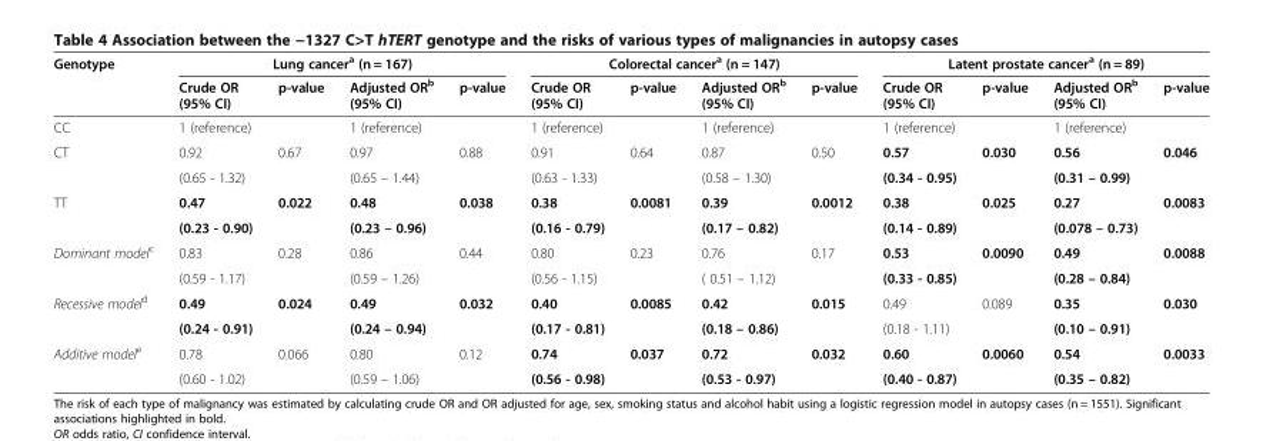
<table><thead><tr><td rowspan="2">Genotype</td><td colspan="4">Lung cancer<sup>a</sup> (n = 167)</td><td colspan="4">Colorectal cancer<sup>a</sup> (n = 147)</td><td colspan="4">Latent prostate cancer<sup>a</sup> (n = 89)</td></tr><tr><td>Crude OR (95% CI)</td><td>p-value</td><td>Adjusted OR<sup>b</sup> (95% CI)</td><td>p-value</td><td>Crude OR (95% CI)</td><td>p-value</td><td>Adjusted OR<sup>b</sup> (95% CI)</td><td>p-value</td><td>Crude OR (95% CI)</td><td>p-value</td><td>Adjusted OR<sup>b</sup> (95% CI)</td><td>p-value</td></tr></thead><tbody><tr><td>CC</td><td>1 (reference)</td><td></td><td>1 (reference)</td><td></td><td>1 (reference)</td><td></td><td>1 (reference)</td><td></td><td>1 (reference)</td><td></td><td>1 (reference)</td><td></td></tr><tr><td rowspan="2">CT</td><td>0.92</td><td>0.67</td><td>0.97</td><td>0.88</td><td>0.91</td><td>0.64</td><td>0.87</td><td>0.50</td><td>0.57</td><td>0.030</td><td>0.56</td><td>0.046</td></tr><tr><td>(0.65 - 1.32)</td><td></td><td>(0.65 – 1.44)</td><td></td><td>(0.63 - 1.33)</td><td></td><td>(0.58 – 1.30)</td><td></td><td>(0.34 - 0.95)</td><td></td><td>(0.31 – 0.99)</td><td></td></tr><tr><td rowspan="2">TT</td><td>0.47</td><td>0.022</td><td>0.48</td><td>0.038</td><td>0.38</td><td>0.0081</td><td>0.39</td><td>0.0012</td><td>0.38</td><td>0.025</td><td>0.27</td><td>0.0083</td></tr><tr><td>(0.23 - 0.90)</td><td></td><td>(0.23 – 0.96)</td><td></td><td>(0.16 - 0.79)</td><td></td><td>(0.17 – 0.82)</td><td></td><td>(0.14 - 0.89)</td><td></td><td>(0.078 – 0.73)</td><td></td></tr><tr><td rowspan="2">Dominant model<sup>c</sup></td><td>0.83</td><td>0.28</td><td>0.86</td><td>0.44</td><td>0.80</td><td>0.23</td><td>0.76</td><td>0.17</td><td>0.53</td><td>0.0090</td><td>0.49</td><td>0.0088</td></tr><tr><td>(0.59 - 1.17)</td><td></td><td>(0.59 – 1.26)</td><td></td><td>(0.56 - 1.15)</td><td></td><td>( 0.51 – 1.12)</td><td></td><td>(0.33 - 0.85)</td><td></td><td>(0.28 – 0.84)</td><td></td></tr><tr><td rowspan="2">Recessive model<sup>d</sup></td><td>0.49</td><td>0.024</td><td>0.49</td><td>0.032</td><td>0.40</td><td>0.0085</td><td>0.42</td><td>0.015</td><td>0.49</td><td>0.089</td><td>0.35</td><td>0.030</td></tr><tr><td>(0.24 - 0.91)</td><td></td><td>(0.24 – 0.94)</td><td></td><td>(0.17 - 0.81)</td><td></td><td>(0.18 – 0.86)</td><td></td><td>(0.18 - 1.11)</td><td></td><td>(0.10 – 0.91)</td><td></td></tr><tr><td rowspan="2">Additive model<sup>e</sup></td><td>0.78</td><td>0.066</td><td>0.80</td><td>0.12</td><td>0.74</td><td>0.037</td><td>0.72</td><td>0.032</td><td>0.60</td><td>0.0060</td><td>0.54</td><td>0.0033</td></tr><tr><td>(0.60 - 1.02)</td><td></td><td>(0.59 – 1.06)</td><td></td><td>(0.56 - 0.98)</td><td></td><td>(0.53 - 0.97)</td><td></td><td>(0.40 - 0.87)</td><td></td><td>(0.35 – 0.82)</td><td></td></tr></tbody></table>